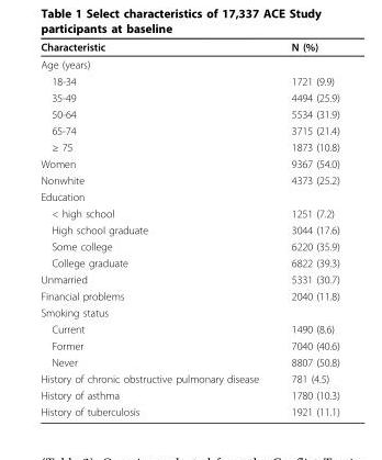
<table><thead><tr><td>Characteristic</td><td>N (%)</td></tr></thead><tbody><tr><td colspan="2">Age (years)</td></tr><tr><td>18-34</td><td>1721 (9.9)</td></tr><tr><td>35-49</td><td>4494 (25.9)</td></tr><tr><td>50-64</td><td>5534 (31.9)</td></tr><tr><td>65-74</td><td>3715 (21.4)</td></tr><tr><td>≥ 75</td><td>1873 (10.8)</td></tr><tr><td>Women</td><td>9367 (54.0)</td></tr><tr><td>Nonwhite</td><td>4373 (25.2)</td></tr><tr><td colspan="2">Education</td></tr><tr><td>&lt; high school</td><td>1251 (7.2)</td></tr><tr><td>High school graduate</td><td>3044 (17.6)</td></tr><tr><td>Some college</td><td>6220 (35.9)</td></tr><tr><td>College graduate</td><td>6822 (39.3)</td></tr><tr><td>Unmarried</td><td>5331 (30.7)</td></tr><tr><td>Financial problems</td><td>2040 (11.8)</td></tr><tr><td colspan="2">Smoking status</td></tr><tr><td>Current</td><td>1490 (8.6)</td></tr><tr><td>Former</td><td>7040 (40.6)</td></tr><tr><td>Never</td><td>8807 (50.8)</td></tr><tr><td>History of chronic obstructive pulmonary disease</td><td>781 (4.5)</td></tr><tr><td>History of asthma</td><td>1780 (10.3)</td></tr><tr><td>History of tuberculosis</td><td>1921 (11.1)</td></tr></tbody></table>